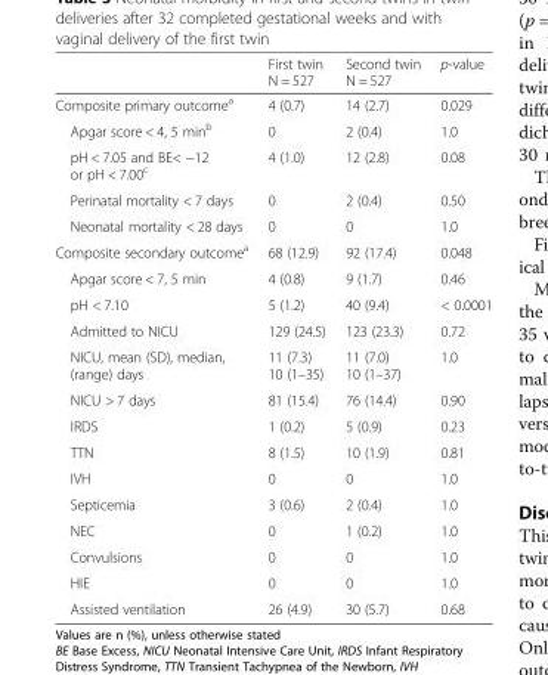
<table><thead><tr><td></td><td>First twin N = 527</td><td>Second twin N = 527</td><td>p-value</td></tr></thead><tbody><tr><td>Composite primary outcome<sup>a</sup></td><td>4 (0.7)</td><td>14 (2.7)</td><td>0.029</td></tr><tr><td>Apgar score &lt; 4, 5 min<sup>b</sup></td><td>0</td><td>2 (0.4)</td><td>1.0</td></tr><tr><td>pH &lt; 7.05 and BE&lt; −12 or pH &lt; 7.00<sup>c</sup></td><td>4 (1.0)</td><td>12 (2.8)</td><td>0.08</td></tr><tr><td>Perinatal mortality &lt; 7 days</td><td>0</td><td>2 (0.4)</td><td>0.50</td></tr><tr><td>Neonatal mortality &lt; 28 days</td><td>0</td><td>0</td><td>1.0</td></tr><tr><td>Composite secondary outcome<sup>a</sup></td><td>68 (12.9)</td><td>92 (17.4)</td><td>0.048</td></tr><tr><td>Apgar score &lt; 7, 5 min</td><td>4 (0.8)</td><td>9 (1.7)</td><td>0.46</td></tr><tr><td>pH &lt; 7.10</td><td>5 (1.2)</td><td>40 (9.4)</td><td>&lt; 0.0001</td></tr><tr><td>Admitted to NICU</td><td>129 (24.5)</td><td>123 (23.3)</td><td>0.72</td></tr><tr><td>NICU, mean (SD), median, (range) days</td><td>11 (7.3) 10 (1–35)</td><td>11 (7.0) 10 (1–37)</td><td>1.0</td></tr><tr><td>NICU &gt; 7 days</td><td>81 (15.4)</td><td>76 (14.4)</td><td>0.90</td></tr><tr><td>IRDS</td><td>1 (0.2)</td><td>5 (0.9)</td><td>0.23</td></tr><tr><td>TTN</td><td>8 (1.5)</td><td>10 (1.9)</td><td>0.81</td></tr><tr><td>IVH</td><td>0</td><td>0</td><td>1.0</td></tr><tr><td>Septicemia</td><td>3 (0.6)</td><td>2 (0.4)</td><td>1.0</td></tr><tr><td>NEC</td><td>0</td><td>1 (0.2)</td><td>1.0</td></tr><tr><td>Convulsions</td><td>0</td><td>0</td><td>1.0</td></tr><tr><td>HIE</td><td>0</td><td>0</td><td>1.0</td></tr><tr><td>Assisted ventilation</td><td>26 (4.9)</td><td>30 (5.7)</td><td>0.68</td></tr></tbody></table>